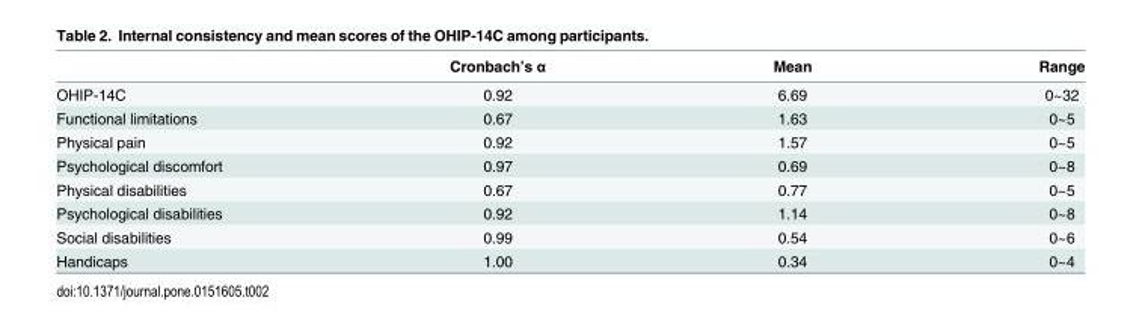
<table><thead><tr><td></td><td>Cronbach’s α</td><td>Mean</td><td>Range</td></tr></thead><tbody><tr><td>OHIP-14C</td><td>0.92</td><td>6.69</td><td>0~32</td></tr><tr><td>Functional limitations</td><td>0.67</td><td>1.63</td><td>0~5</td></tr><tr><td>Physical pain</td><td>0.92</td><td>1.57</td><td>0~5</td></tr><tr><td>Psychological discomfort</td><td>0.97</td><td>0.69</td><td>0~8</td></tr><tr><td>Physical disabilities</td><td>0.67</td><td>0.77</td><td>0~5</td></tr><tr><td>Psychological disabilities</td><td>0.92</td><td>1.14</td><td>0~8</td></tr><tr><td>Social disabilities</td><td>0.99</td><td>0.54</td><td>0~6</td></tr><tr><td>Handicaps</td><td>1.00</td><td>0.34</td><td>0~4</td></tr></tbody></table>